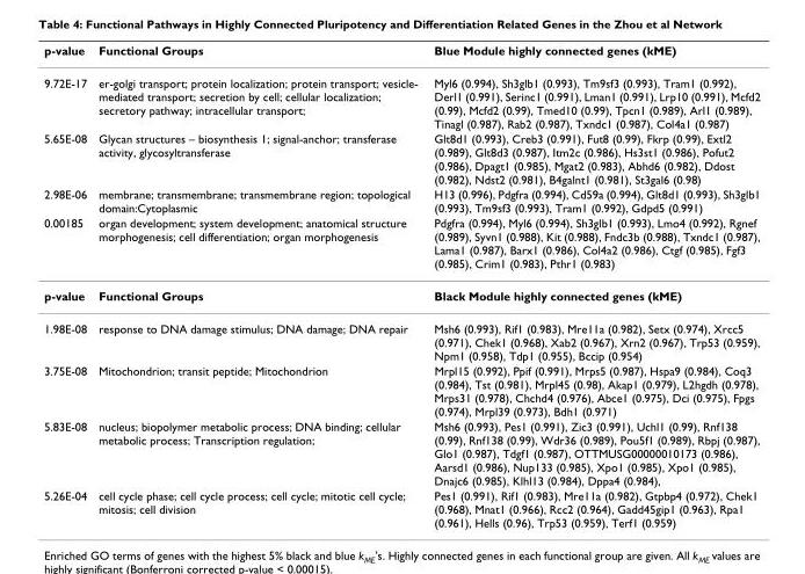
<table><thead><tr><td>p-value</td><td>Functional Groups</td><td>Blue Module highly connected genes (kME)</td></tr></thead><tbody><tr><td>9.72E-17</td><td>er-golgi transport; protein localization; protein transport; vesicle- mediated transport; secretion by cell; cellular localization; secretory pathway; intracellular transport;</td><td>Myl6 (0.994), Sh3glb1 (0.993), Tm9sf3 (0.993), Tram1 (0.992), Derl1 (0.991), Serinc1 (0.991), Lman1 (0.991), Lrp10 (0.991), Mcfd2 (0.99), Mcfd2 (0.99), Tmed10 (0.99), Tpcn1 (0.989), Arl1 (0.989), Tinagl (0.987), Rab2 (0.987), Txndc1 (0.987), Col4a1 (0.987)</td></tr><tr><td>5.65E-08</td><td>Glycan structures – biosynthesis 1; signal-anchor; transferase activity, glycosyltransferase</td><td>Glt8d1 (0.993), Creb3 (0.991), Fut8 (0.99), Fkrp (0.99), Extl2 (0.989), Glt8d3 (0.987), Itm2c (0.986), Hs3st1 (0.986), Pofut2 (0.986), Dpagt1 (0.985), Mgat2 (0.983), Abhd6 (0.982), Ddost (0.982), Ndst2 (0.981), B4galnt1 (0.981), St3gal6 (0.98)</td></tr><tr><td>2.98E-06</td><td>membrane; transmembrane; transmembrane region; topological domain:Cytoplasmic</td><td>H13 (0.996), Pdgfra (0.994), Cd59a (0.994), Glt8d1 (0.993), Sh3glb1 (0.993), Tm9sf3 (0.993), Tram1 (0.992), Gdpd5 (0.991)</td></tr><tr><td>0.00185</td><td>organ development; system development; anatomical structure morphogenesis; cell differentiation; organ morphogenesis</td><td>Pdgfra (0.994), Myl6 (0.994), Sh3glb1 (0.993), Lmo4 (0.992), Rgnef (0.989), Syvn1 (0.988), Kit (0.988), Fndc3b (0.988), Txndc1 (0.987), Lama1 (0.987), Barx1 (0.986), Col4a2 (0.986), Ctgf (0.985), Fgf3 (0.985), Crim1 (0.983), Pthr1 (0.983)</td></tr><tr><td>p-value</td><td>Functional Groups</td><td>Black Module highly connected genes (kME)</td></tr><tr><td>1.98E-08</td><td>response to DNA damage stimulus; DNA damage; DNA repair</td><td>Msh6 (0.993), Rif1 (0.983), Mre11a (0.982), Setx (0.974), Xrcc5 (0.971), Chek1 (0.968), Xab2 (0.967), Xrn2 (0.967), Trp53 (0.959), Npm1 (0.958), Tdp1 (0.955), Bccip (0.954)</td></tr><tr><td>3.75E-08</td><td>Mitochondrion; transit peptide; Mitochondrion</td><td>Mrpl15 (0.992), Ppif (0.991), Mrps5 (0.987), Hspa9 (0.984), Coq3 (0.984), Tst (0.981), Mrpl45 (0.98), Akap1 (0.979), L2hgdh (0.978), Mrps31 (0.978), Chchd4 (0.976), Abce1 (0.975), Dci (0.975), Fpgs (0.974), Mrpl39 (0.973), Bdh1 (0.971)</td></tr><tr><td>5.83E-08</td><td>nucleus; biopolymer metabolic process; DNA binding; cellular metabolic process; Transcription regulation;</td><td>Msh6 (0.993), Pes1 (0.991), Zic3 (0.991), Uchl1 (0.99), Rnf138 (0.99), Rnf138 (0.99), Wdr36 (0.989), Pou5f1 (0.989), Rbpj (0.987), Glo1 (0.987), Tdgf1 (0.987), OTTMUSG00000010173 (0.986), Aarsd1 (0.986), Nup133 (0.985), Xpo1 (0.985), Xpo1 (0.985), Dnajc6 (0.985), Klhl13 (0.984), Dppa4 (0.984),</td></tr><tr><td>5.26E-04</td><td>cell cycle phase; cell cycle process; cell cycle; mitotic cell cycle; mitosis; cell division</td><td>Pes1 (0.991), Rif1 (0.983), Mre11a (0.982), Gtpbp4 (0.972), Chek1 (0.968), Mnat1 (0.966), Rcc2 (0.964), Gadd45gip1 (0.963), Rpa1 (0.961), Hells (0.96), Trp53 (0.959), Terf1 (0.959)</td></tr></tbody></table>